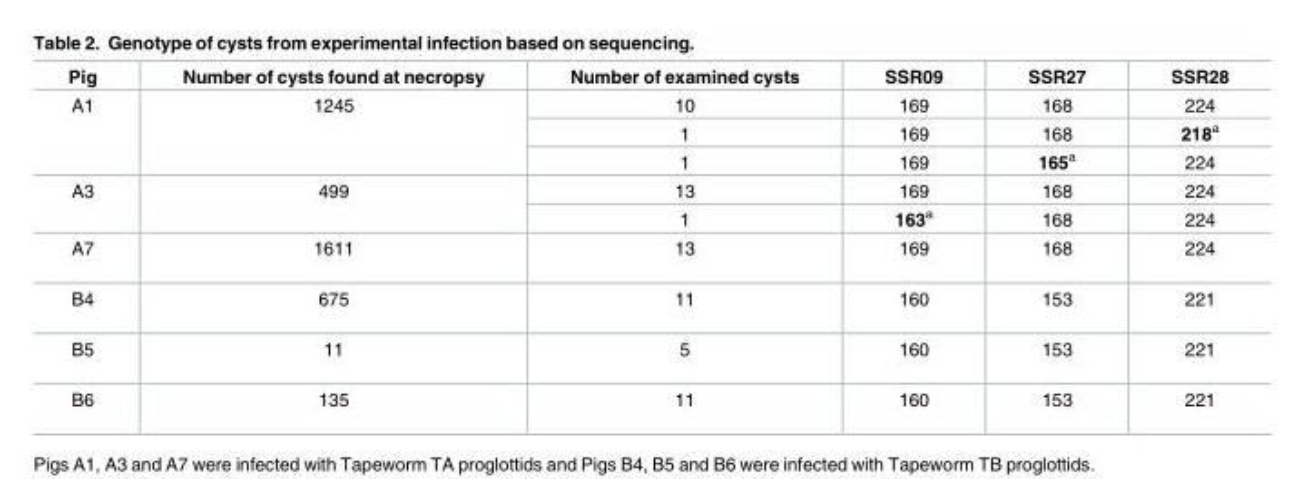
<table><thead><tr><td>Pig</td><td>Number of cysts found at necropsy</td><td>Number of examined cysts</td><td>SSR09</td><td>SSR27</td><td>SSR28</td></tr></thead><tbody><tr><td rowspan="3">A1</td><td rowspan="3">1245</td><td>10</td><td>169</td><td>168</td><td>224</td></tr><tr><td>1</td><td>169</td><td>168</td><td>218<sup>a</sup></td></tr><tr><td>1</td><td>169</td><td>165<sup>a</sup></td><td>224</td></tr><tr><td rowspan="2">A3</td><td rowspan="2">499</td><td>13</td><td>169</td><td>168</td><td>224</td></tr><tr><td>1</td><td>163<sup>a</sup></td><td>168</td><td>224</td></tr><tr><td>A7</td><td>1611</td><td>13</td><td>169</td><td>168</td><td>224</td></tr><tr><td>B4</td><td>675</td><td>11</td><td>160</td><td>153</td><td>221</td></tr><tr><td>B5</td><td>11</td><td>5</td><td>160</td><td>153</td><td>221</td></tr><tr><td>B6</td><td>135</td><td>11</td><td>160</td><td>153</td><td>221</td></tr></tbody></table>